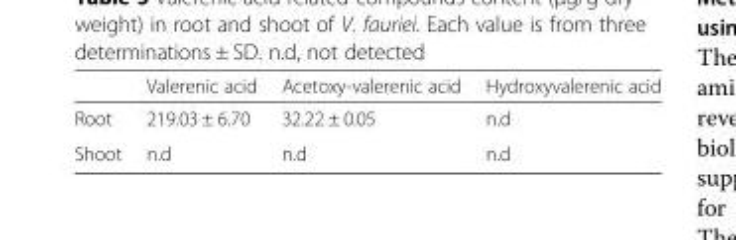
<table><thead><tr><td></td><td>Valerenic acid</td><td>Acetoxy-valerenic acid</td><td>Hydroxyvalerenic acid</td></tr></thead><tbody><tr><td>Root</td><td>219.03 ± 6.70</td><td>32.22 ± 0.05</td><td>n.d</td></tr><tr><td>Shoot</td><td>n.d</td><td>n.d</td><td>n.d</td></tr></tbody></table>